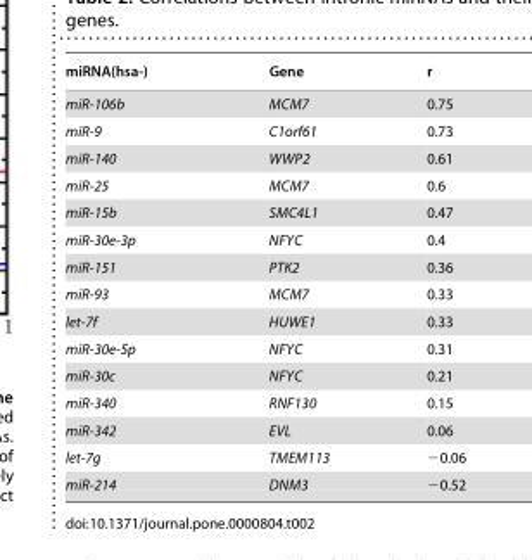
<table><thead><tr><td>miRNA(hsa-)</td><td>Gene</td><td>r</td></tr></thead><tbody><tr><td>miR-106b</td><td>MCM7</td><td>0.75</td></tr><tr><td>miR-9</td><td>C1orf61</td><td>0.73</td></tr><tr><td>miR-140</td><td>WWP2</td><td>0.61</td></tr><tr><td>miR-25</td><td>MCM7</td><td>0.6</td></tr><tr><td>miR-15b</td><td>SMC4L1</td><td>0.47</td></tr><tr><td>miR-30e-3p</td><td>NFYC</td><td>0.4</td></tr><tr><td>miR-151</td><td>PTK2</td><td>0.36</td></tr><tr><td>miR-93</td><td>MCM7</td><td>0.33</td></tr><tr><td>let-7f</td><td>HUWE1</td><td>0.33</td></tr><tr><td>miR-30e-5p</td><td>NFYC</td><td>0.31</td></tr><tr><td>miR-30c</td><td>NFYC</td><td>0.21</td></tr><tr><td>miR-340</td><td>RNF130</td><td>0.15</td></tr><tr><td>miR-342</td><td>EVL</td><td>0.06</td></tr><tr><td>let-7g</td><td>TMEM113</td><td>−0.06</td></tr><tr><td>miR-214</td><td>DNM3</td><td>−0.52</td></tr></tbody></table>